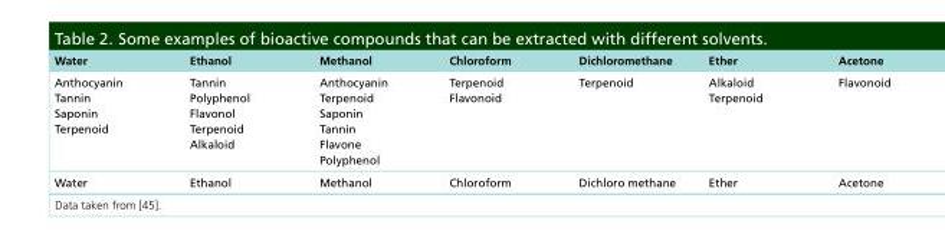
<table><thead><tr><td>Water</td><td>Ethanol</td><td>Methanol</td><td>Chloroform</td><td>Dichloromethane</td><td>Ether</td><td>Acetone</td></tr></thead><tbody><tr><td>Anthocyanin Tannin Saponin Terpenoid</td><td>Tannin Polyphenol Flavonol Terpenoid Alkaloid</td><td>Anthocyanin Terpenoid Saponin Tannin Flavone Polyphenol</td><td>Terpenoid Flavonoid</td><td>Terpenoid</td><td>Alkaloid Terpenoid</td><td>Flavonoid</td></tr><tr><td>Water</td><td>Ethanol</td><td>Methanol</td><td>Chloroform</td><td>Dichloro methane</td><td>Ether</td><td>Acetone</td></tr></tbody></table>